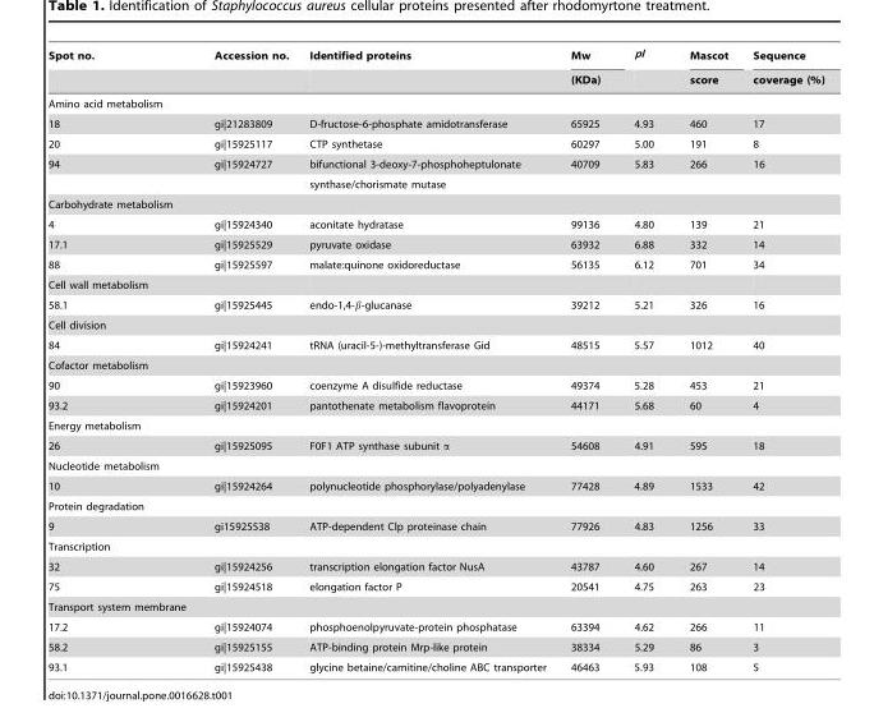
<table><thead><tr><td rowspan="2">Spot no.</td><td rowspan="2">Accession no.</td><td rowspan="2">Identified proteins</td><td rowspan="2">Mw (KDa)</td><td rowspan="2">pI</td><td rowspan="2">Mascot score</td><td rowspan="2">Sequence coverage (%)</td></tr><tr></tr></thead><tbody><tr><td colspan="7">Amino acid metabolism</td></tr><tr><td>18</td><td>gi|21283809</td><td>D-fructose-6-phosphate amidotransferase</td><td>65925</td><td>4.93</td><td>460</td><td>17</td></tr><tr><td>20</td><td>gi|15925117</td><td>CTP synthetase</td><td>60297</td><td>5.00</td><td>191</td><td>8</td></tr><tr><td rowspan="2">94</td><td>gi|15924727</td><td>bifunctional 3-deoxy-7-phosphoheptulonate</td><td>40709</td><td>5.83</td><td>266</td><td>16</td></tr><tr><td></td><td>synthase/chorismate mutase</td><td></td><td></td><td></td><td></td></tr><tr><td colspan="7">Carbohydrate metabolism</td></tr><tr><td>4</td><td>gi|15924340</td><td>aconitate hydratase</td><td>99136</td><td>4.80</td><td>139</td><td>21</td></tr><tr><td>17.1</td><td>gi|15925529</td><td>pyruvate oxidase</td><td>63932</td><td>6.88</td><td>332</td><td>14</td></tr><tr><td>88</td><td>gi|15925597</td><td>malate:quinone oxidoreductase</td><td>56135</td><td>6.12</td><td>701</td><td>34</td></tr><tr><td colspan="7">Cell wall metabolism</td></tr><tr><td>58.1</td><td>gi|15925445</td><td>endo-1,4-β-glucanase</td><td>39212</td><td>5.21</td><td>326</td><td>16</td></tr><tr><td colspan="7">Cell division</td></tr><tr><td>84</td><td>gi|15924241</td><td>tRNA (uracil-5-)-methyltransferase Gid</td><td>48515</td><td>5.57</td><td>1012</td><td>40</td></tr><tr><td colspan="7">Cofactor metabolism</td></tr><tr><td>90</td><td>gi|15923960</td><td>coenzyme A disulfide reductase</td><td>49374</td><td>5.28</td><td>453</td><td>21</td></tr><tr><td>93.2</td><td>gi|15924201</td><td>pantothenate metabolism flavoprotein</td><td>44171</td><td>5.68</td><td>60</td><td>4</td></tr><tr><td colspan="7">Energy metabolism</td></tr><tr><td>26</td><td>gi|15925095</td><td>F0F1 ATP synthase subunit α</td><td>54608</td><td>4.91</td><td>595</td><td>18</td></tr><tr><td colspan="7">Nucleotide metabolism</td></tr><tr><td>10</td><td>gi|15924264</td><td>polynucleotide phosphorylase/polyadenylase</td><td>77428</td><td>4.89</td><td>1533</td><td>42</td></tr><tr><td colspan="7">Protein degradation</td></tr><tr><td>9</td><td>gi15925538</td><td>ATP-dependent Clp proteinase chain</td><td>77926</td><td>4.83</td><td>1256</td><td>33</td></tr><tr><td colspan="7">Transcription</td></tr><tr><td>32</td><td>gi|15924256</td><td>transcription elongation factor NusA</td><td>43787</td><td>4.60</td><td>267</td><td>14</td></tr><tr><td>75</td><td>gi|15924518</td><td>elongation factor P</td><td>20541</td><td>4.75</td><td>263</td><td>23</td></tr><tr><td colspan="7">Transport system membrane</td></tr><tr><td>17.2</td><td>gi|15924074</td><td>phosphoenolpyruvate-protein phosphatase</td><td>63394</td><td>4.62</td><td>266</td><td>11</td></tr><tr><td>58.2</td><td>gi|15925155</td><td>ATP-binding protein Mrp-like protein</td><td>38334</td><td>5.29</td><td>86</td><td>3</td></tr><tr><td>93.1</td><td>gi|15925438</td><td>glycine betaine/carnitine/choline ABC transporter</td><td>46463</td><td>5.93</td><td>108</td><td>5</td></tr></tbody></table>